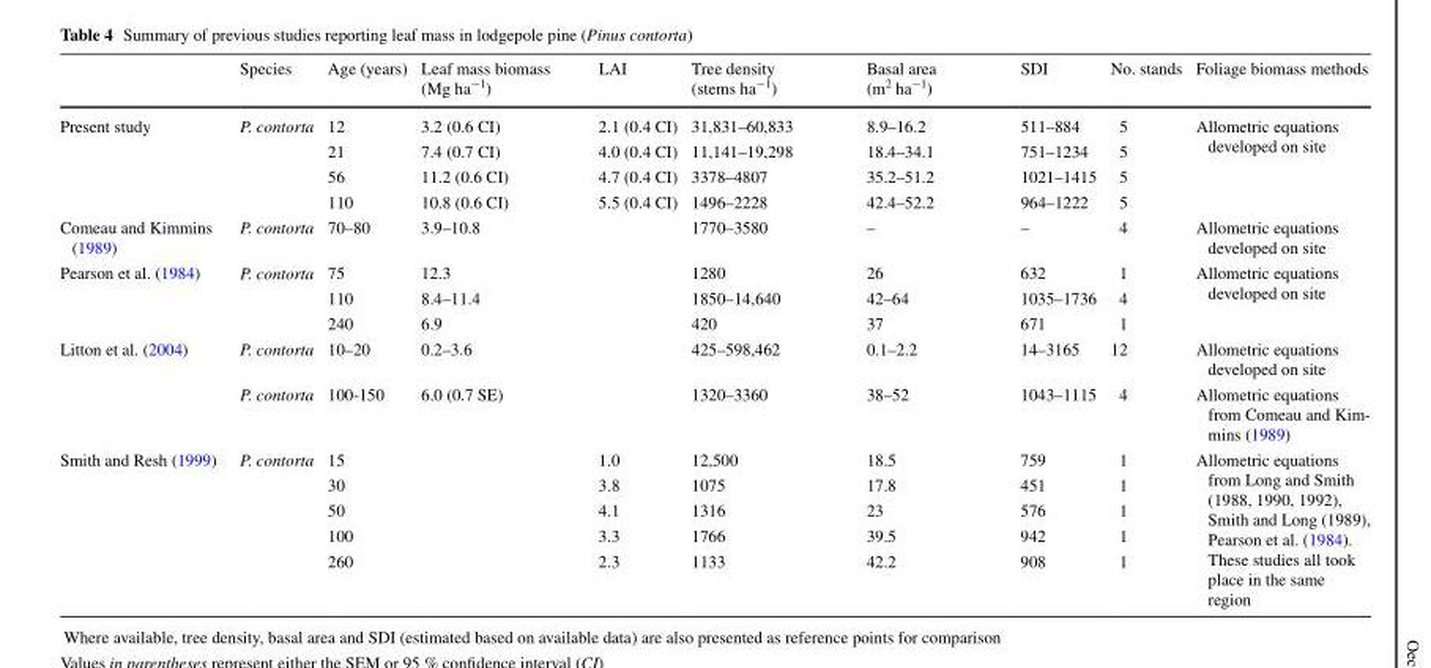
<table><thead><tr><td></td><td>Species</td><td>Age (years)</td><td>Leaf mass biomass (Mg ha<sup>−1</sup>)</td><td>LAI</td><td>Tree density (stems ha<sup>−1</sup>)</td><td>Basal area (m<sup>2</sup> ha<sup>−1</sup>)</td><td>SDI</td><td>No. stands</td><td>Foliage biomass methods</td></tr></thead><tbody><tr><td rowspan="4">Present study</td><td rowspan="4">P. contorta</td><td>12</td><td>3.2 (0.6 CI)</td><td>2.1 (0.4 CI)</td><td>31,831–60,833</td><td>8.9–16.2</td><td>511–884</td><td>5</td><td rowspan="4">Allometric equations developed on site</td></tr><tr><td>21</td><td>7.4 (0.7 CI)</td><td>4.0 (0.4 CI)</td><td>11,141–19,298</td><td>18.4–34.1</td><td>751–1234</td><td>5</td></tr><tr><td>56</td><td>11.2 (0.6 CI)</td><td>4.7 (0.4 CI)</td><td>3378–4807</td><td>35.2–51.2</td><td>1021–1415</td><td>5</td></tr><tr><td>110</td><td>10.8 (0.6 CI)</td><td>5.5 (0.4 CI)</td><td>1496–2228</td><td>42.4–52.2</td><td>964–1222</td><td>5</td></tr><tr><td>Comeau and Kimmins (1989)</td><td>P. contorta</td><td>70–80</td><td>3.9–10.8</td><td></td><td>1770–3580</td><td>–</td><td>–</td><td>4</td><td>Allometric equations developed on site</td></tr><tr><td rowspan="3">Pearson et al. (1984)</td><td rowspan="3">P. contorta</td><td>75</td><td>12.3</td><td></td><td>1280</td><td>26</td><td>632</td><td>1</td><td rowspan="3">Allometric equations developed on site</td></tr><tr><td>110</td><td>8.4–11.4</td><td></td><td>1850–14,640</td><td>42–64</td><td>1035–1736</td><td>4</td></tr><tr><td>240</td><td>6.9</td><td></td><td>420</td><td>37</td><td>671</td><td>1</td></tr><tr><td rowspan="2">Litton et al. (2004)</td><td>P. contorta</td><td>10–20</td><td>0.2–3.6</td><td></td><td>425–598,462</td><td>0.1–2.2</td><td>14–3165</td><td>12</td><td>Allometric equations developed on site</td></tr><tr><td>P. contorta</td><td>100-150</td><td>6.0 (0.7 SE)</td><td></td><td>1320–3360</td><td>38–52</td><td>1043–1115</td><td>4</td><td>Allometric equations from Comeau and Kim- mins (1989)</td></tr><tr><td rowspan="5">Smith and Resh (1999)</td><td rowspan="5">P. contorta</td><td>15</td><td></td><td>1.0</td><td>12,500</td><td>18.5</td><td>759</td><td>1</td><td rowspan="5">Allometric equations from Long and Smith (1988, 1990, 1992), Smith and Long (1989), Pearson et al. (1984). These studies all took place in the same region</td></tr><tr><td>30</td><td></td><td>3.8</td><td>1075</td><td>17.8</td><td>451</td><td>1</td></tr><tr><td>50</td><td></td><td>4.1</td><td>1316</td><td>23</td><td>576</td><td>1</td></tr><tr><td>100</td><td></td><td>3.3</td><td>1766</td><td>39.5</td><td>942</td><td>1</td></tr><tr><td>260</td><td></td><td>2.3</td><td>1133</td><td>42.2</td><td>908</td><td>1</td></tr></tbody></table>